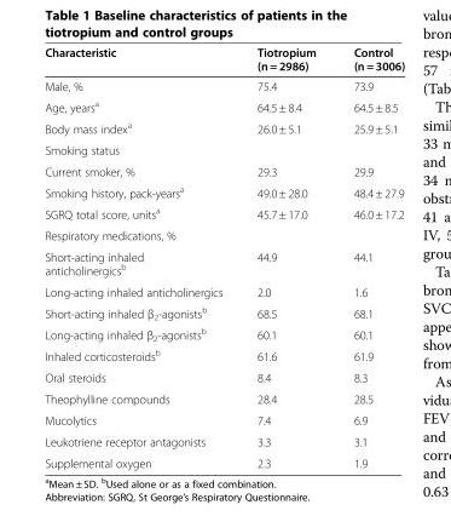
<table><thead><tr><td>Characteristic</td><td>Tiotropium (n = 2986)</td><td>Control (n = 3006)</td></tr></thead><tbody><tr><td>Male, %</td><td>75.4</td><td>73.9</td></tr><tr><td>Age, years<sup>a</sup></td><td>64.5 ± 8.4</td><td>64.5 ± 8.5</td></tr><tr><td>Body mass index<sup>a</sup></td><td>26.0 ± 5.1</td><td>25.9 ± 5.1</td></tr><tr><td colspan="3">Smoking status</td></tr><tr><td>Current smoker, %</td><td>29.3</td><td>29.9</td></tr><tr><td>Smoking history, pack-years<sup>a</sup></td><td>49.0 ± 28.0</td><td>48.4 ± 27.9</td></tr><tr><td>SGRQ total score, units<sup>a</sup></td><td>45.7 ± 17.0</td><td>46.0 ± 17.2</td></tr><tr><td colspan="3">Respiratory medications, %</td></tr><tr><td>Short-acting inhaled anticholinergics<sup>b</sup></td><td>44.9</td><td>44.1</td></tr><tr><td>Long-acting inhaled anticholinergics</td><td>2.0</td><td>1.6</td></tr><tr><td>Short-acting inhaled β<sub>2</sub>-agonists<sup>b</sup></td><td>68.5</td><td>68.1</td></tr><tr><td>Long-acting inhaled β<sub>2</sub>-agonists<sup>b</sup></td><td>60.1</td><td>60.1</td></tr><tr><td>Inhaled corticosteroids<sup>b</sup></td><td>61.6</td><td>61.9</td></tr><tr><td>Oral steroids</td><td>8.4</td><td>8.3</td></tr><tr><td>Theophylline compounds</td><td>28.4</td><td>28.5</td></tr><tr><td>Mucolytics</td><td>7.4</td><td>6.9</td></tr><tr><td>Leukotriene receptor antagonists</td><td>3.3</td><td>3.1</td></tr><tr><td>Supplemental oxygen</td><td>2.3</td><td>1.9</td></tr></tbody></table>